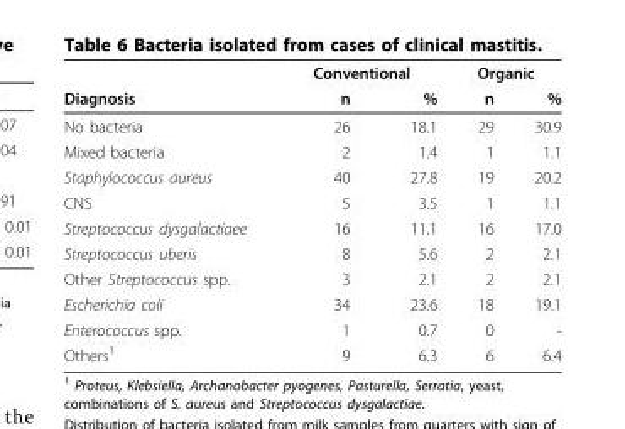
<table><thead><tr><td rowspan="2">Diagnosis</td><td colspan="2">Conventional</td><td colspan="2">Organic</td></tr><tr><td>n</td><td>%</td><td>n</td><td>%</td></tr></thead><tbody><tr><td>No bacteria</td><td>26</td><td>18.1</td><td>29</td><td>30.9</td></tr><tr><td>Mixed bacteria</td><td>2</td><td>1.4</td><td>1</td><td>1.1</td></tr><tr><td>Staphylococcus aureus</td><td>40</td><td>27.8</td><td>19</td><td>20.2</td></tr><tr><td>CNS</td><td>5</td><td>3.5</td><td>1</td><td>1.1</td></tr><tr><td>Streptococcus dysgalactiaee</td><td>16</td><td>11.1</td><td>16</td><td>17.0</td></tr><tr><td>Streptococcus uberis</td><td>8</td><td>5.6</td><td>2</td><td>2.1</td></tr><tr><td>Other Streptococcus spp.</td><td>3</td><td>2.1</td><td>2</td><td>2.1</td></tr><tr><td>Escherichia coli</td><td>34</td><td>23.6</td><td>18</td><td>19.1</td></tr><tr><td>Enterococcus spp.</td><td>1</td><td>0.7</td><td>0</td><td>-</td></tr><tr><td>Others<sup>1</sup></td><td>9</td><td>6.3</td><td>6</td><td>6.4</td></tr></tbody></table>